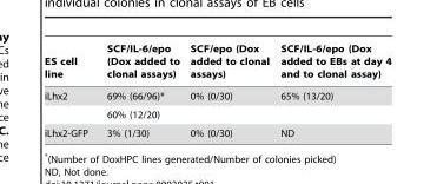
<table><thead><tr><td>ES cell line</td><td>SCF/IL-6/epo (Dox added to clonal assays)</td><td>SCF/epo (Dox added to clonal assays)</td><td>SCF/IL-6/epo (Dox added to EBs at day 4 and to clonal assay)</td></tr></thead><tbody><tr><td rowspan="2">iLhx2</td><td>69% (66/96)*</td><td>0% (0/30)</td><td>65% (13/20)</td></tr><tr><td>60% (12/20)</td><td></td><td></td></tr><tr><td>iLhx2-GFP</td><td>3% (1/30)</td><td>0% (0/30)</td><td>ND</td></tr></tbody></table>